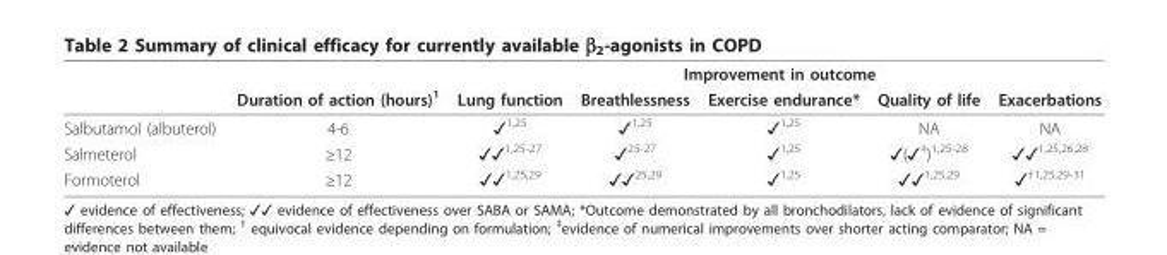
<table><thead><tr><td rowspan="2"></td><td rowspan="2">Duration of action (hours)<sup>1</sup></td><td colspan="5">Improvement in outcome</td></tr><tr><td>Lung function</td><td>Breathlessness</td><td>Exercise endurance*</td><td>Quality of life</td><td>Exacerbations</td></tr></thead><tbody><tr><td>Salbutamol (albuterol)</td><td>4-6</td><td>✓<sup>1,25</sup></td><td>✓<sup>1,25</sup></td><td>✓<sup>1,25</sup></td><td>NA</td><td>NA</td></tr><tr><td>Salmeterol</td><td>≥12</td><td>✓✓<sup>1,25-27</sup></td><td>✓<sup>25-27</sup></td><td>✓<sup>1,25</sup></td><td>✓(✓<sup>‡</sup>)<sup>1,25-28</sup></td><td>✓✓<sup>1,25,26,28</sup></td></tr><tr><td>Formoterol</td><td>≥12</td><td>✓✓<sup>1,25,29</sup></td><td>✓✓<sup>25,29</sup></td><td>✓<sup>1,25</sup></td><td>✓✓<sup>1,25,29</sup></td><td>✓<sup>†1,25,29-31</sup></td></tr></tbody></table>